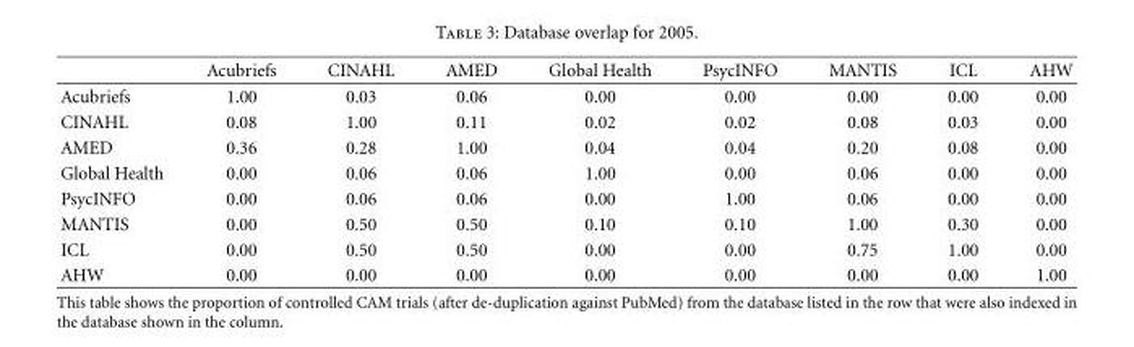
<table><thead><tr><td></td><td>Acubriefs</td><td>CINAHL</td><td>AMED</td><td>Global Health</td><td>PsycINFO</td><td>MANTIS</td><td>ICL</td><td>AHW</td></tr></thead><tbody><tr><td>Acubriefs</td><td>1.00</td><td>0.03</td><td>0.06</td><td>0.00</td><td>0.00</td><td>0.00</td><td>0.00</td><td>0.00</td></tr><tr><td>CINAHL</td><td>0.08</td><td>1.00</td><td>0.11</td><td>0.02</td><td>0.02</td><td>0.08</td><td>0.03</td><td>0.00</td></tr><tr><td>AMED</td><td>0.36</td><td>0.28</td><td>1.00</td><td>0.04</td><td>0.04</td><td>0.20</td><td>0.08</td><td>0.00</td></tr><tr><td>Global Health</td><td>0.00</td><td>0.06</td><td>0.06</td><td>1.00</td><td>0.00</td><td>0.06</td><td>0.00</td><td>0.00</td></tr><tr><td>PsycINFO</td><td>0.00</td><td>0.06</td><td>0.06</td><td>0.00</td><td>1.00</td><td>0.06</td><td>0.00</td><td>0.00</td></tr><tr><td>MANTIS</td><td>0.00</td><td>0.50</td><td>0.50</td><td>0.10</td><td>0.10</td><td>1.00</td><td>0.30</td><td>0.00</td></tr><tr><td>ICL</td><td>0.00</td><td>0.50</td><td>0.50</td><td>0.00</td><td>0.00</td><td>0.75</td><td>1.00</td><td>0.00</td></tr><tr><td>AHW</td><td>0.00</td><td>0.00</td><td>0.00</td><td>0.00</td><td>0.00</td><td>0.00</td><td>0.00</td><td>1.00</td></tr></tbody></table>